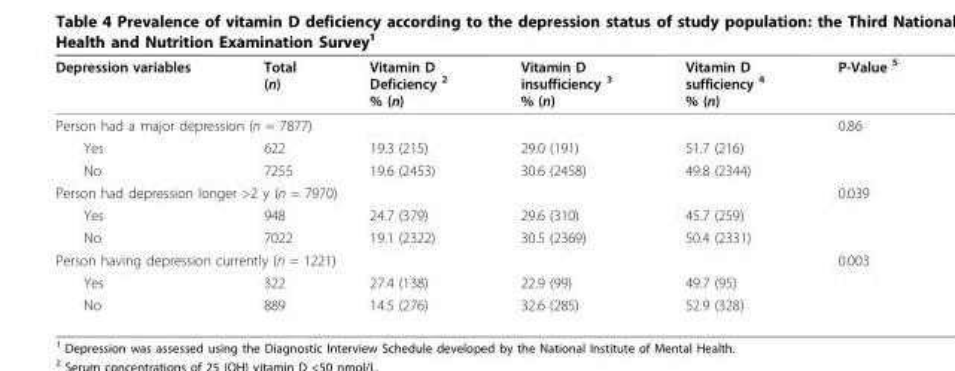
<table><thead><tr><td>Depression variables</td><td>Total (n)</td><td>Vitamin D Deficiency <sup>2</sup> % (n)</td><td>Vitamin D insufficiency <sup>3</sup> % (n)</td><td>Vitamin D sufficiency <sup>4</sup> % (n)</td><td>P-Value <sup>5</sup></td></tr></thead><tbody><tr><td colspan="5">Person had a major depression (n = 7877)</td><td>0.86</td></tr><tr><td>Yes</td><td>622</td><td>19.3 (215)</td><td>29.0 (191)</td><td>51.7 (216)</td><td></td></tr><tr><td>No</td><td>7255</td><td>19.6 (2453)</td><td>30.6 (2458)</td><td>49.8 (2344)</td><td></td></tr><tr><td colspan="4">Person had depression longer &gt;2 y (n = 7970)</td><td></td><td>0.039</td></tr><tr><td>Yes</td><td>948</td><td>24.7 (379)</td><td>29.6 (310)</td><td>45.7 (259)</td><td></td></tr><tr><td>No</td><td>7022</td><td>19.1 (2322)</td><td>30.5 (2369)</td><td>50.4 (2331)</td><td></td></tr><tr><td colspan="5">Person having depression currently (n = 1221)</td><td>0.003</td></tr><tr><td>Yes</td><td>322</td><td>27.4 (138)</td><td>22.9 (99)</td><td>49.7 (95)</td><td></td></tr><tr><td>No</td><td>889</td><td>14.5 (276)</td><td>32.6 (285)</td><td>52.9 (328)</td><td></td></tr></tbody></table>